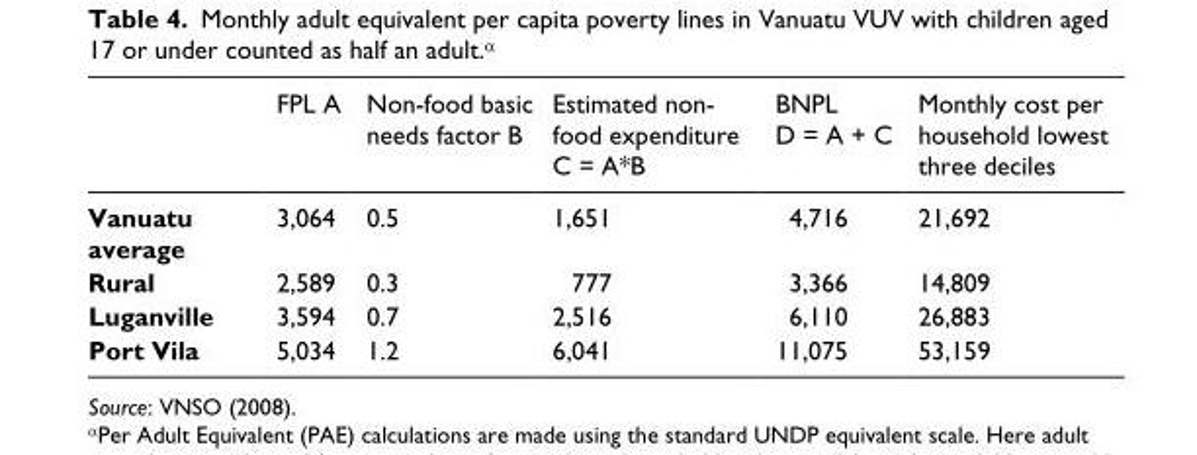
<table><thead><tr><td></td><td>FPL A</td><td>Non-food basic needs factor B</td><td>Estimated non- food expenditure C = A*B</td><td>BNPL D = A + C</td><td>Monthly cost per household lowest three deciles</td></tr></thead><tbody><tr><td>Vanuatu average</td><td>3,064</td><td>0.5</td><td>1,651</td><td>4,716</td><td>21,692</td></tr><tr><td>Rural</td><td>2,589</td><td>0.3</td><td>777</td><td>3,366</td><td>14,809</td></tr><tr><td>Luganville</td><td>3,594</td><td>0.7</td><td>2,516</td><td>6,110</td><td>26,883</td></tr><tr><td>Port Vila</td><td>5,034</td><td>1.2</td><td>6,041</td><td>11,075</td><td>53,159</td></tr></tbody></table>